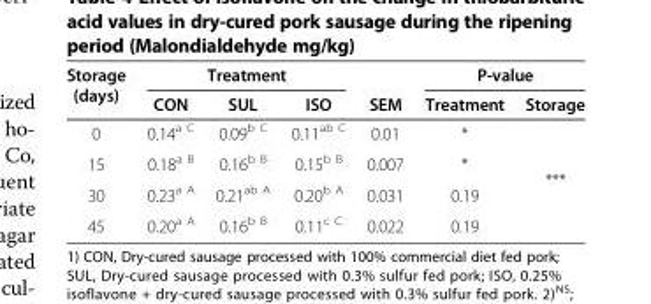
<table><thead><tr><td rowspan="2">Storage (days)</td><td colspan="3">Treatment</td><td rowspan="2">SEM</td><td colspan="2">P-value</td></tr><tr><td>CON</td><td>SUL</td><td>ISO</td><td>Treatment</td><td>Storage</td></tr></thead><tbody><tr><td>0</td><td>0.14<sup>a C</sup></td><td>0.09<sup>b C</sup></td><td>0.11<sup>ab C</sup></td><td>0.01</td><td>*</td><td rowspan="4">***</td></tr><tr><td>15</td><td>0.18<sup>a B</sup></td><td>0.16<sup>b B</sup></td><td>0.15<sup>b B</sup></td><td>0.007</td><td>*</td></tr><tr><td>30</td><td>0.23<sup>a A</sup></td><td>0.21<sup>ab A</sup></td><td>0.20<sup>b A</sup></td><td>0.031</td><td>0.19</td></tr><tr><td>45</td><td>0.20<sup>a A</sup></td><td>0.16<sup>b B</sup></td><td>0.11<sup>c C</sup></td><td>0.022</td><td>0.19</td></tr></tbody></table>